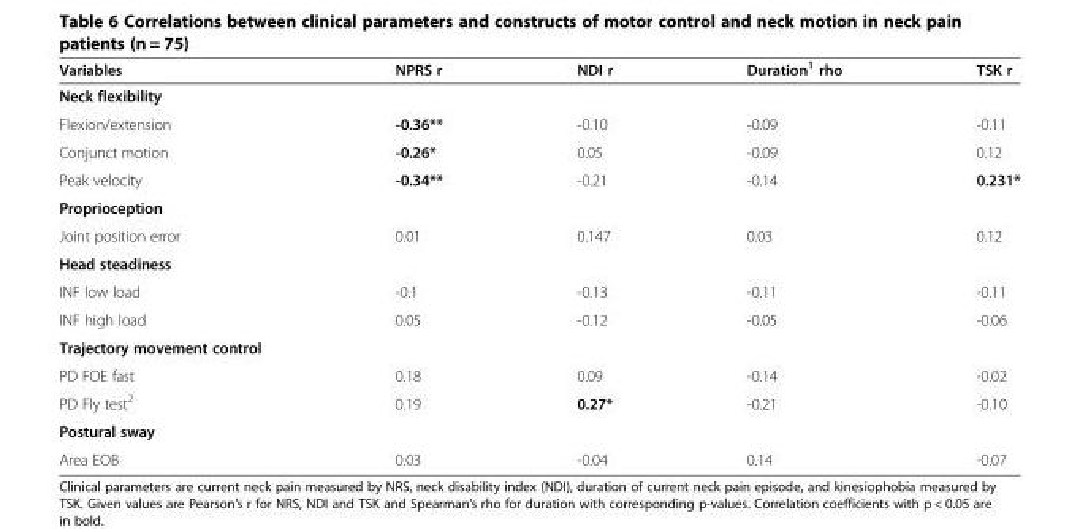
<table><thead><tr><td>Variables</td><td>NPRS r</td><td>NDI r</td><td>Duration<sup>1</sup> rho</td><td>TSK r</td></tr></thead><tbody><tr><td colspan="5">Neck flexibility</td></tr><tr><td>Flexion/extension</td><td>-0.36**</td><td>-0.10</td><td>-0.09</td><td>-0.11</td></tr><tr><td>Conjunct motion</td><td>-0.26*</td><td>0.05</td><td>-0.09</td><td>0.12</td></tr><tr><td>Peak velocity</td><td>-0.34**</td><td>-0.21</td><td>-0.14</td><td>0.231*</td></tr><tr><td colspan="5">Proprioception</td></tr><tr><td>Joint position error</td><td>0.01</td><td>0.147</td><td>0.03</td><td>0.12</td></tr><tr><td colspan="5">Head steadiness</td></tr><tr><td>INF low load</td><td>-0.1</td><td>-0.13</td><td>-0.11</td><td>-0.11</td></tr><tr><td>INF high load</td><td>0.05</td><td>-0.12</td><td>-0.05</td><td>-0.06</td></tr><tr><td colspan="5">Trajectory movement control</td></tr><tr><td>PD FOE fast</td><td>0.18</td><td>0.09</td><td>-0.14</td><td>-0.02</td></tr><tr><td>PD Fly test<sup>2</sup></td><td>0.19</td><td>0.27*</td><td>-0.21</td><td>-0.10</td></tr><tr><td colspan="5">Postural sway</td></tr><tr><td>Area EOB</td><td>0.03</td><td>-0.04</td><td>0.14</td><td>-0.07</td></tr></tbody></table>